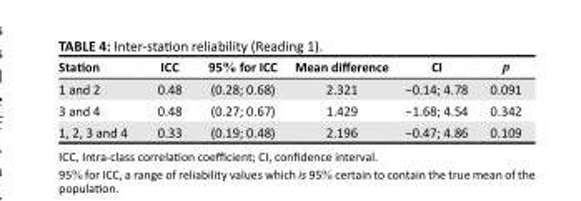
<table><thead><tr><td>Station</td><td>ICC</td><td>95% for ICC</td><td>Mean difference</td><td>CI</td><td>p</td></tr></thead><tbody><tr><td>1 and 2</td><td>0.48</td><td>(0.28; 0.68)</td><td>2.321</td><td>−0.14; 4.78</td><td>0.091</td></tr><tr><td>3 and 4</td><td>0.48</td><td>(0.27; 0.67)</td><td>1.429</td><td>−1.68; 4.54</td><td>0.342</td></tr><tr><td>1, 2, 3 and 4</td><td>0.33</td><td>(0.19; 0.48)</td><td>2.196</td><td>−0.47; 4.86</td><td>0.109</td></tr></tbody></table>